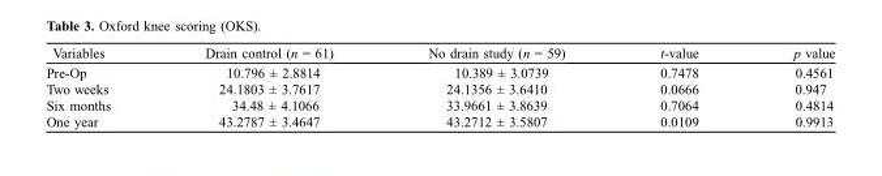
<table><thead><tr><td>Variables</td><td>Drain control (n = 61)</td><td>No drain study (n = 59)</td><td>t-value</td><td>p value</td></tr></thead><tbody><tr><td>Pre-Op</td><td>10.796 ± 2.8814</td><td>10.389 ± 3.0739</td><td>0.7478</td><td>0.4561</td></tr><tr><td>Two weeks</td><td>24.1803 ± 3.7617</td><td>24.1356 ± 3.6410</td><td>0.0666</td><td>0.947</td></tr><tr><td>Six months</td><td>34.48 ± 4.1066</td><td>33.9661 ± 3.8639</td><td>0.7064</td><td>0.4814</td></tr><tr><td>One year</td><td>43.2787 ± 3.4647</td><td>43.2712 ± 3.5807</td><td>0.0109</td><td>0.9913</td></tr></tbody></table>